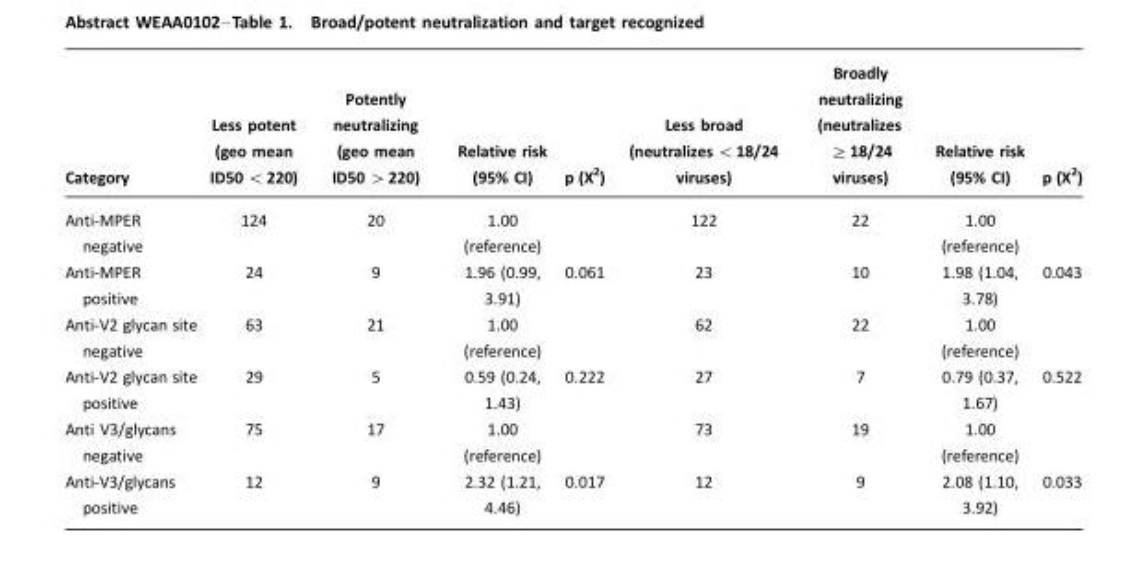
<table><thead><tr><td>Category</td><td>Less potent (geo mean ID50 &lt;220)</td><td>Potently neutralizing (geo mean ID50 &gt;220)</td><td>Relative risk (95% CI)</td><td>p (X2)</td><td>Less broad (neutralizes &lt;18/24 viruses)</td><td>Broadly neutralizing (neutralizes ≥18/24 viruses)</td><td>Relative risk (95% CI)</td><td>p (X2)</td></tr></thead><tbody><tr><td>Anti-MPER negative</td><td>124</td><td>20</td><td>1.00 (reference)</td><td></td><td>122</td><td>22</td><td>1.00 (reference)</td><td></td></tr><tr><td>Anti-MPER positive</td><td>24</td><td>9</td><td>1.96 (0.99, 3.91)</td><td>0.061</td><td>23</td><td>10</td><td>1.98 (1.04, 3.78)</td><td>0.043</td></tr><tr><td>Anti-V2 glycan site negative</td><td>63</td><td>21</td><td>1.00 (reference)</td><td></td><td>62</td><td>22</td><td>1.00 (reference)</td><td></td></tr><tr><td>Anti-V2 glycan site positive</td><td>29</td><td>5</td><td>0.59 (0.24, 1.43)</td><td>0.222</td><td>27</td><td>7</td><td>0.79 (0.37, 1.67)</td><td>0.522</td></tr><tr><td>Anti V3/glycans negative</td><td>75</td><td>17</td><td>1.00 (reference)</td><td></td><td>73</td><td>19</td><td>1.00 (reference)</td><td></td></tr><tr><td>Anti-V3/glycans positive</td><td>12</td><td>9</td><td>2.32 (1.21, 4.46)</td><td>0.017</td><td>12</td><td>9</td><td>2.08 (1.10, 3.92)</td><td>0.033</td></tr></tbody></table>